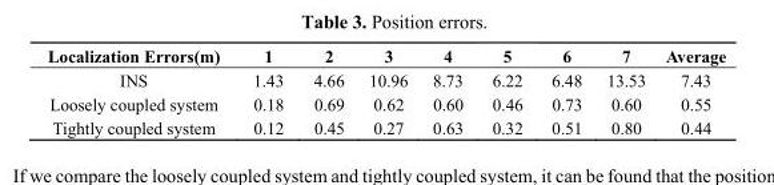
<table><thead><tr><td>Localization Errors(m)</td><td>1</td><td>2</td><td>3</td><td>4</td><td>5</td><td>6</td><td>7</td><td>Average</td></tr></thead><tbody><tr><td>INS</td><td>1.43</td><td>4.66</td><td>10.96</td><td>8.73</td><td>6.22</td><td>6.48</td><td>13.53</td><td>7.43</td></tr><tr><td>Loosely coupled system</td><td>0.18</td><td>0.69</td><td>0.62</td><td>0.60</td><td>0.46</td><td>0.73</td><td>0.60</td><td>0.55</td></tr><tr><td>Tightly coupled system</td><td>0.12</td><td>0.45</td><td>0.27</td><td>0.63</td><td>0.32</td><td>0.51</td><td>0.80</td><td>0.44</td></tr></tbody></table>